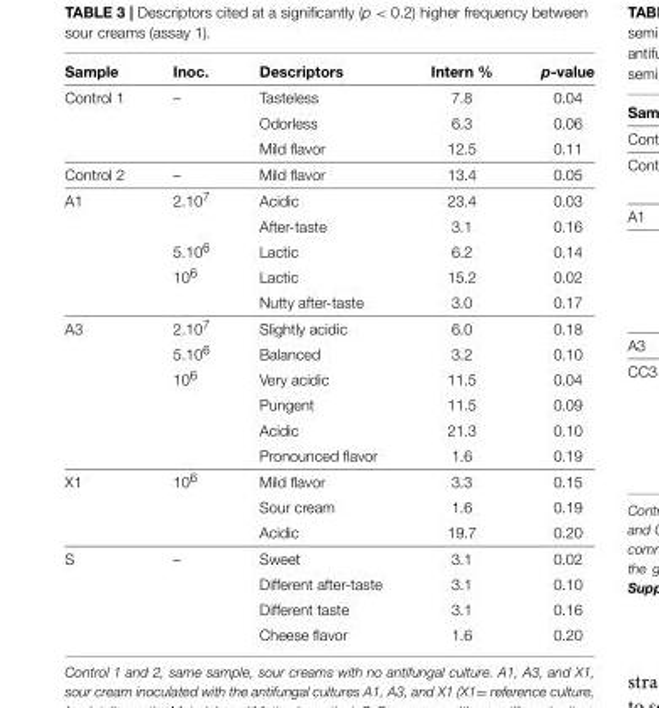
<table><thead><tr><td>Sample</td><td>Inoc.</td><td>Descriptors</td><td>Intern %</td><td>p-value</td></tr></thead><tbody><tr><td rowspan="3">Control 1</td><td>–</td><td>Tasteless</td><td>7.8</td><td>0.04</td></tr><tr><td></td><td>Odorless</td><td>6.3</td><td>0.06</td></tr><tr><td></td><td>Mild flavor</td><td>12.5</td><td>0.11</td></tr><tr><td>Control 2</td><td>–</td><td>Mild flavor</td><td>13.4</td><td>0.05</td></tr><tr><td rowspan="5">A1</td><td>2.10<sup>7</sup></td><td>Acidic</td><td>23.4</td><td>0.03</td></tr><tr><td></td><td>After-taste</td><td>3.1</td><td>0.16</td></tr><tr><td>5.10<sup>6</sup></td><td>Lactic</td><td>6.2</td><td>0.14</td></tr><tr><td>10<sup>6</sup></td><td>Lactic</td><td>15.2</td><td>0.02</td></tr><tr><td></td><td>Nutty after-taste</td><td>3.0</td><td>0.17</td></tr><tr><td rowspan="6">A3</td><td>2.10<sup>7</sup></td><td>Slightly acidic</td><td>6.0</td><td>0.18</td></tr><tr><td>5.10<sup>6</sup></td><td>Balanced</td><td>3.2</td><td>0.10</td></tr><tr><td>10<sup>6</sup></td><td>Very acidic</td><td>11.5</td><td>0.04</td></tr><tr><td></td><td>Pungent</td><td>11.5</td><td>0.09</td></tr><tr><td></td><td>Acidic</td><td>21.3</td><td>0.10</td></tr><tr><td></td><td>Pronounced flavor</td><td>1.6</td><td>0.19</td></tr><tr><td rowspan="3">X1</td><td>10<sup>6</sup></td><td>Mild flavor</td><td>3.3</td><td>0.15</td></tr><tr><td></td><td>Sour cream</td><td>1.6</td><td>0.19</td></tr><tr><td></td><td>Acidic</td><td>19.7</td><td>0.20</td></tr><tr><td rowspan="4">S</td><td>–</td><td>Sweet</td><td>3.1</td><td>0.02</td></tr><tr><td></td><td>Different after-taste</td><td>3.1</td><td>0.10</td></tr><tr><td></td><td>Different taste</td><td>3.1</td><td>0.16</td></tr><tr><td></td><td>Cheese flavor</td><td>1.6</td><td>0.20</td></tr></tbody></table>